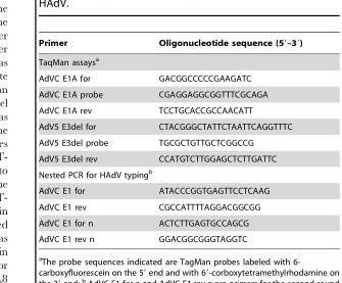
<table><thead><tr><td>Primer</td><td>Oligonucleotide sequence (5′–3′)</td></tr></thead><tbody><tr><td colspan="2">TaqMan assays<sup>a</sup></td></tr><tr><td>AdVC E1A for</td><td>GACGGCCCCCGAAGATC</td></tr><tr><td>AdVC E1A probe</td><td>CGAGGAGGCGGTTTCGCAGA</td></tr><tr><td>AdVC E1A rev</td><td>TCCTGCACCGCCAACATT</td></tr><tr><td>AdV5 E3del for</td><td>CTACGGGCTATTCTAATTCAGGTTTC</td></tr><tr><td>AdV5 E3del probe</td><td>TGCGCTGTTGCTCGGCCG</td></tr><tr><td>AdV5 E3del rev</td><td>CCATGTCTTGGAGCTCTTGATTC</td></tr><tr><td colspan="2">Nested PCR for HAdV typing<sup>b</sup></td></tr><tr><td>AdVC E1 for</td><td>ATACCCGGTGAGTTCCTCAAG</td></tr><tr><td>AdVC E1 rev</td><td>CGCCATTTTAGGACGGCGG</td></tr><tr><td>AdVC E1 for n</td><td>ACTCTTGAGTGCCAGCG</td></tr><tr><td>AdVC E1 rev n</td><td>GGACGGCGGGTAGGTC</td></tr></tbody></table>